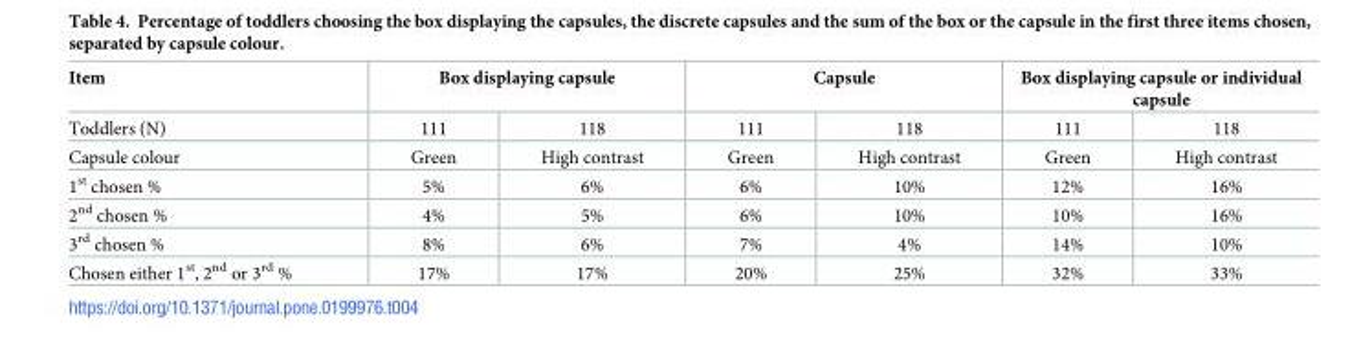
<table><thead><tr><td rowspan="2">Item Toddlers (N)</td><td colspan="2">Box displaying capsule</td><td colspan="2">Capsule</td><td colspan="2">Box displaying capsule or individual capsule</td></tr><tr><td>111</td><td>118</td><td>111</td><td>118</td><td>111</td><td>118</td></tr></thead><tbody><tr><td>Capsule colour</td><td>Green</td><td>High contrast</td><td>Green</td><td>High contrast</td><td>Green</td><td>High contrast</td></tr><tr><td>1<sup>st</sup> chosen %</td><td>5%</td><td>6%</td><td>6%</td><td>10%</td><td>12%</td><td>16%</td></tr><tr><td>2<sup>nd</sup> chosen %</td><td>4%</td><td>5%</td><td>6%</td><td>10%</td><td>10%</td><td>16%</td></tr><tr><td>3<sup>rd</sup> chosen %</td><td>8%</td><td>6%</td><td>7%</td><td>4%</td><td>14%</td><td>10%</td></tr><tr><td>Chosen either 1<sup>st</sup>, 2<sup>nd</sup> or 3<sup>rd</sup> %</td><td>17%</td><td>17%</td><td>20%</td><td>25%</td><td>32%</td><td>33%</td></tr></tbody></table>